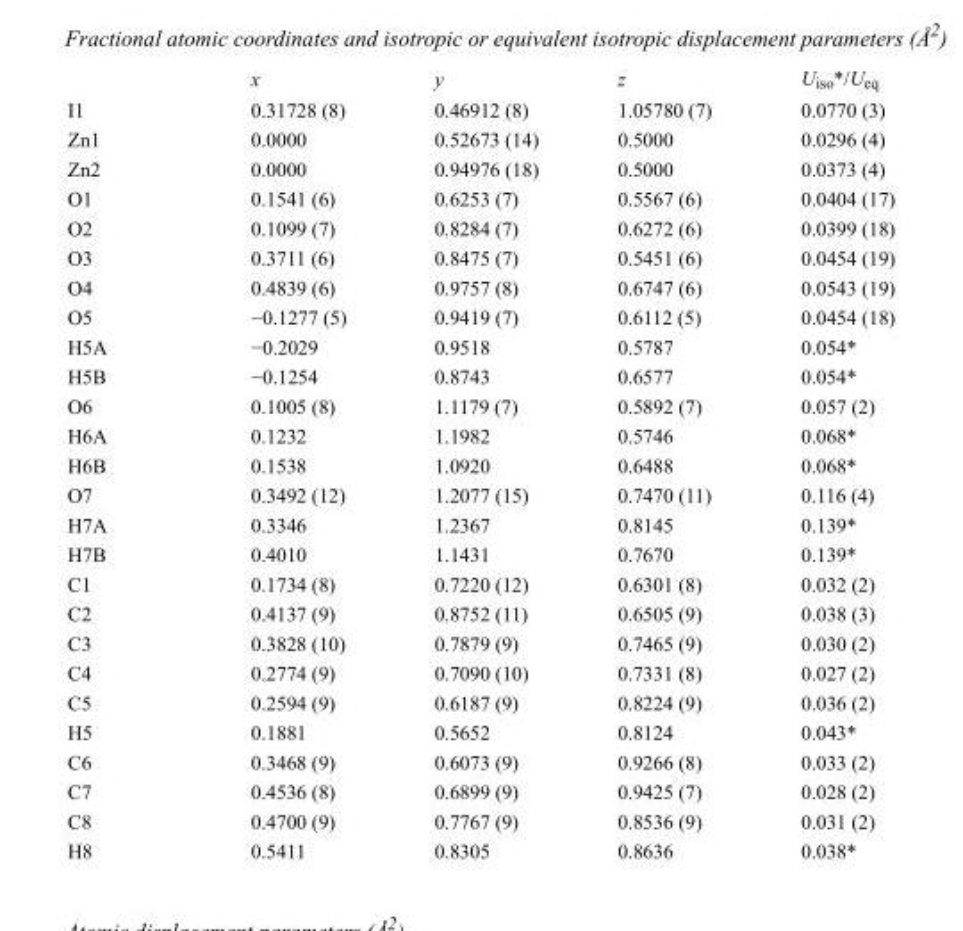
<table><thead><tr><td></td><td>x</td><td>y</td><td>z</td><td>U<sub>iso</sub>*/U<sub>eq</sub></td></tr></thead><tbody><tr><td>I1</td><td>0.31728 (8)</td><td>0.46912 (8)</td><td>1.05780 (7)</td><td>0.0770 (3)</td></tr><tr><td>Zn1</td><td>0.0000</td><td>0.52673 (14)</td><td>0.5000</td><td>0.0296 (4)</td></tr><tr><td>Zn2</td><td>0.0000</td><td>0.94976 (18)</td><td>0.5000</td><td>0.0373 (4)</td></tr><tr><td>O1</td><td>0.1541 (6)</td><td>0.6253 (7)</td><td>0.5567 (6)</td><td>0.0404 (17)</td></tr><tr><td>O2</td><td>0.1099 (7)</td><td>0.8284 (7)</td><td>0.6272 (6)</td><td>0.0399 (18)</td></tr><tr><td>O3</td><td>0.3711 (6)</td><td>0.8475 (7)</td><td>0.5451 (6)</td><td>0.0454 (19)</td></tr><tr><td>O4</td><td>0.4839 (6)</td><td>0.9757 (8)</td><td>0.6747 (6)</td><td>0.0543 (19)</td></tr><tr><td>O5</td><td>−0.1277 (5)</td><td>0.9419 (7)</td><td>0.6112 (5)</td><td>0.0454 (18)</td></tr><tr><td>H5A</td><td>−0.2029</td><td>0.9518</td><td>0.5787</td><td>0.054*</td></tr><tr><td>H5B</td><td>−0.1254</td><td>0.8743</td><td>0.6577</td><td>0.054*</td></tr><tr><td>O6</td><td>0.1005 (8)</td><td>1.1179 (7)</td><td>0.5892 (7)</td><td>0.057 (2)</td></tr><tr><td>H6A</td><td>0.1232</td><td>1.1982</td><td>0.5746</td><td>0.068*</td></tr><tr><td>H6B</td><td>0.1538</td><td>1.0920</td><td>0.6488</td><td>0.068*</td></tr><tr><td>O7</td><td>0.3492 (12)</td><td>1.2077 (15)</td><td>0.7470 (11)</td><td>0.116 (4)</td></tr><tr><td>H7A</td><td>0.3346</td><td>1.2367</td><td>0.8145</td><td>0.139*</td></tr><tr><td>H7B</td><td>0.4010</td><td>1.1431</td><td>0.7670</td><td>0.139*</td></tr><tr><td>C1</td><td>0.1734 (8)</td><td>0.7220 (12)</td><td>0.6301 (8)</td><td>0.032 (2)</td></tr><tr><td>C2</td><td>0.4137 (9)</td><td>0.8752 (11)</td><td>0.6505 (9)</td><td>0.038 (3)</td></tr><tr><td>C3</td><td>0.3828 (10)</td><td>0.7879 (9)</td><td>0.7465 (9)</td><td>0.030 (2)</td></tr><tr><td>C4</td><td>0.2774 (9)</td><td>0.7090 (10)</td><td>0.7331 (8)</td><td>0.027 (2)</td></tr><tr><td>C5</td><td>0.2594 (9)</td><td>0.6187 (9)</td><td>0.8224 (9)</td><td>0.036 (2)</td></tr><tr><td>H5</td><td>0.1881</td><td>0.5652</td><td>0.8124</td><td>0.043*</td></tr><tr><td>C6</td><td>0.3468 (9)</td><td>0.6073 (9)</td><td>0.9266 (8)</td><td>0.033 (2)</td></tr><tr><td>C7</td><td>0.4536 (8)</td><td>0.6899 (9)</td><td>0.9425 (7)</td><td>0.028 (2)</td></tr><tr><td>C8</td><td>0.4700 (9)</td><td>0.7767 (9)</td><td>0.8536 (9)</td><td>0.031 (2)</td></tr><tr><td>H8</td><td>0.5411</td><td>0.8305</td><td>0.8636</td><td>0.038*</td></tr></tbody></table>